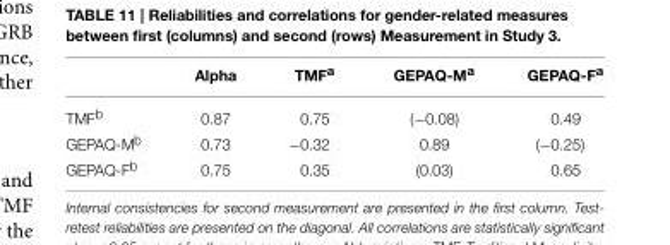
<table><thead><tr><td></td><td>Alpha</td><td>TMF<sup>a</sup></td><td>GEPAQ-M<sup>a</sup></td><td>GEPAQ-F<sup>a</sup></td></tr></thead><tbody><tr><td>TMF<sup>b</sup></td><td>0.87</td><td>0.75</td><td>(−0.08)</td><td>0.49</td></tr><tr><td>GEPAQ-M<sup>b</sup></td><td>0.73</td><td>−0.32</td><td>0.89</td><td>(−0.25)</td></tr><tr><td>GEPAQ-F<sup>b</sup></td><td>0.75</td><td>0.35</td><td>(0.03)</td><td>0.65</td></tr></tbody></table>